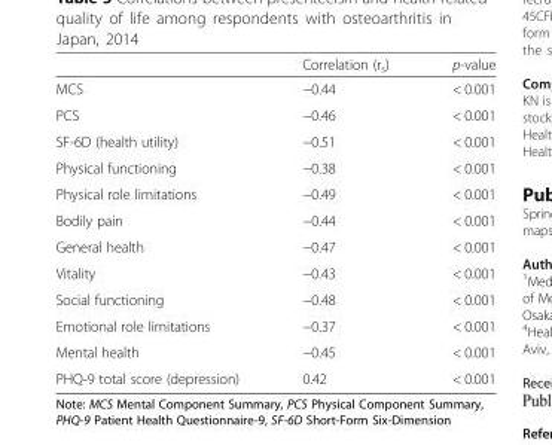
<table><thead><tr><td></td><td>Correlation (r<sub>s</sub>)</td><td>p-value</td></tr></thead><tbody><tr><td>MCS</td><td>−0.44</td><td>&lt; 0.001</td></tr><tr><td>PCS</td><td>−0.46</td><td>&lt; 0.001</td></tr><tr><td>SF-6D (health utility)</td><td>−0.51</td><td>&lt; 0.001</td></tr><tr><td>Physical functioning</td><td>−0.38</td><td>&lt; 0.001</td></tr><tr><td>Physical role limitations</td><td>−0.49</td><td>&lt; 0.001</td></tr><tr><td>Bodily pain</td><td>−0.44</td><td>&lt; 0.001</td></tr><tr><td>General health</td><td>−0.47</td><td>&lt; 0.001</td></tr><tr><td>Vitality</td><td>−0.43</td><td>&lt; 0.001</td></tr><tr><td>Social functioning</td><td>−0.48</td><td>&lt; 0.001</td></tr><tr><td>Emotional role limitations</td><td>−0.37</td><td>&lt; 0.001</td></tr><tr><td>Mental health</td><td>−0.45</td><td>&lt; 0.001</td></tr><tr><td>PHQ-9 total score (depression)</td><td>0.42</td><td>&lt; 0.001</td></tr></tbody></table>